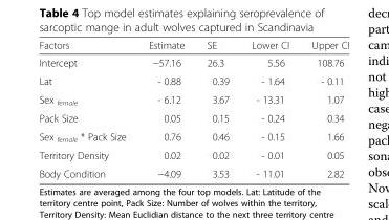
<table><thead><tr><td>Factors</td><td>Estimate</td><td>SE</td><td>Lower CI</td><td>Upper CI</td></tr></thead><tbody><tr><td>Intercept</td><td>−57.16</td><td>26.3</td><td>5.56</td><td>108.76</td></tr><tr><td>Lat</td><td>- 0.88</td><td>0.39</td><td>- 1.64</td><td>- 0.11</td></tr><tr><td>Sex <sub>female</sub></td><td>- 6.12</td><td>3.67</td><td>- 13.31</td><td>1.07</td></tr><tr><td>Pack Size</td><td>0.05</td><td>0.15</td><td>- 0.24</td><td>0.34</td></tr><tr><td>Sex <sub>female</sub> * Pack Size</td><td>0.76</td><td>0.46</td><td>- 0.15</td><td>1.66</td></tr><tr><td>Territory Density</td><td>0.02</td><td>0.02</td><td>- 0.01</td><td>0.05</td></tr><tr><td>Body Condition</td><td>−4.09</td><td>3.53</td><td>- 11.01</td><td>2.82</td></tr></tbody></table>